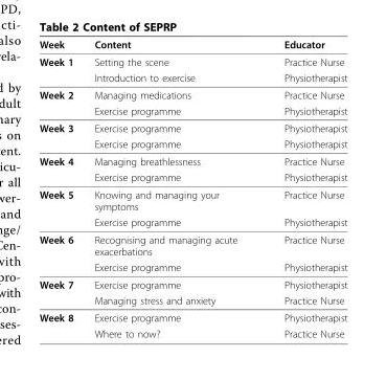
<table><thead><tr><td>Week</td><td>Content</td><td>Educator</td></tr></thead><tbody><tr><td rowspan="2">Week 1</td><td>Setting the scene</td><td>Practice Nurse</td></tr><tr><td>Introduction to exercise</td><td>Physiotherapist</td></tr><tr><td rowspan="2">Week 2</td><td>Managing medications</td><td>Practice Nurse</td></tr><tr><td>Exercise programme</td><td>Physiotherapist</td></tr><tr><td rowspan="2">Week 3</td><td>Exercise programme</td><td>Physiotherapist</td></tr><tr><td>Exercise programme</td><td>Physiotherapist</td></tr><tr><td rowspan="2">Week 4</td><td>Managing breathlessness</td><td>Practice Nurse</td></tr><tr><td>Exercise programme</td><td>Physiotherapist</td></tr><tr><td rowspan="2">Week 5</td><td>Knowing and managing your symptoms</td><td>Practice Nurse</td></tr><tr><td>Exercise programme</td><td>Physiotherapist</td></tr><tr><td rowspan="2">Week 6</td><td>Recognising and managing acute exacerbations</td><td>Practice Nurse</td></tr><tr><td>Exercise programme</td><td>Physiotherapist</td></tr><tr><td rowspan="2">Week 7</td><td>Exercise programme</td><td>Physiotherapist</td></tr><tr><td>Managing stress and anxiety</td><td>Practice Nurse</td></tr><tr><td rowspan="2">Week 8</td><td>Exercise programme</td><td>Physiotherapist</td></tr><tr><td>Where to now?</td><td>Practice Nurse</td></tr></tbody></table>